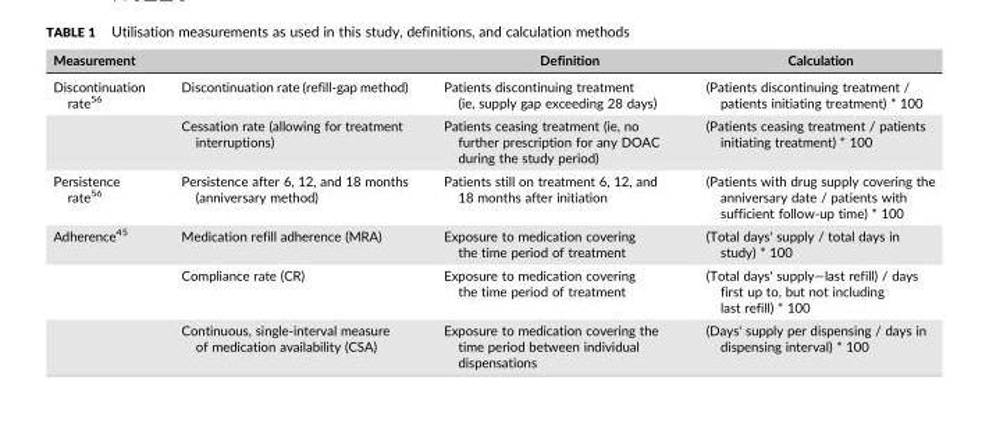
<table><thead><tr><td colspan="2">Measurement</td><td rowspan="2">Definition Patients discontinuing treatment (ie, supply gap exceeding 28 days)</td><td rowspan="2">Calculation (Patients discontinuing treatment / patients initiating treatment) * 100</td></tr><tr><td>Discontinuation rate<sup>56</sup></td><td>Discontinuation rate (refill‐gap method)</td></tr></thead><tbody><tr><td></td><td>Cessation rate (allowing for treatment interruptions)</td><td>Patients ceasing treatment (ie, no further prescription for any DOAC during the study period)</td><td>(Patients ceasing treatment / patients initiating treatment) * 100</td></tr><tr><td>Persistence rate<sup>56</sup></td><td>Persistence after 6, 12, and 18 months (anniversary method)</td><td>Patients still on treatment 6, 12, and 18 months after initiation</td><td>(Patients with drug supply covering the anniversary date / patients with sufficient follow‐up time) * 100</td></tr><tr><td rowspan="3">Adherence<sup>45</sup></td><td>Medication refill adherence (MRA)</td><td>Exposure to medication covering the time period of treatment</td><td>(Total days&#x27; supply / total days in study) * 100</td></tr><tr><td>Compliance rate (CR)</td><td>Exposure to medication covering the time period of treatment</td><td>(Total days&#x27; supply—last refill) / days first up to, but not including last refill) * 100</td></tr><tr><td>Continuous, single‐interval measure of medication availability (CSA)</td><td>Exposure to medication covering the time period between individual dispensations</td><td>(Days&#x27; supply per dispensing / days in dispensing interval) * 100</td></tr></tbody></table>